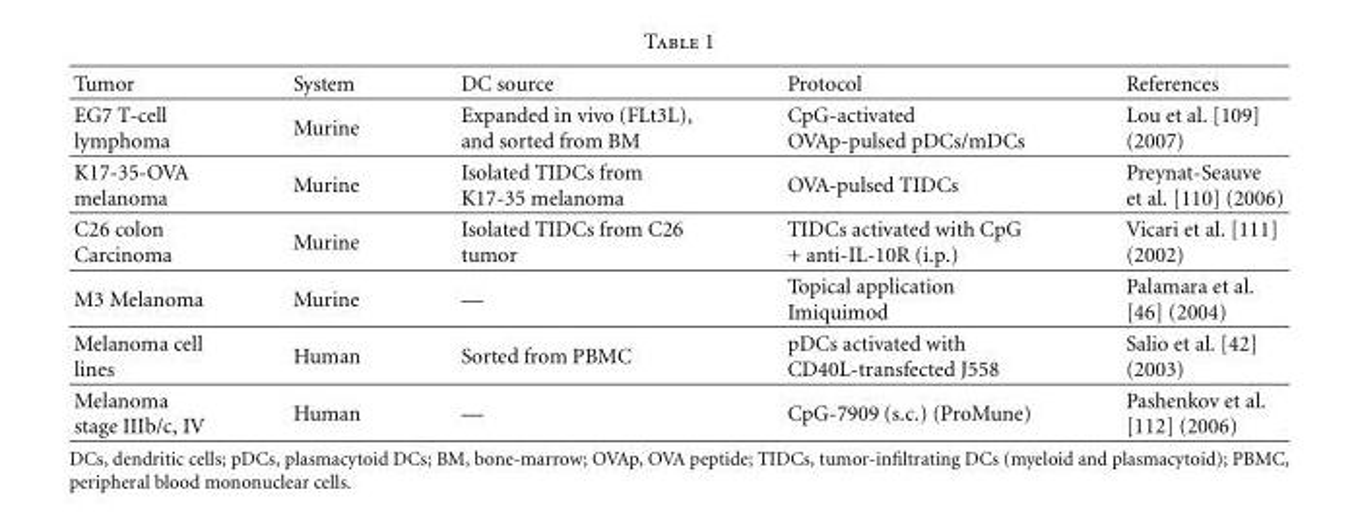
<table><thead><tr><td>Tumor</td><td>System</td><td>DC source</td><td>Protocol</td><td>References</td></tr></thead><tbody><tr><td>EG7 T-cell lymphoma</td><td>Murine</td><td>Expanded in vivo (FLt3L), and sorted from BM</td><td>CpG-activated OVAp-pulsed pDCs/mDCs</td><td>Lou et al. [109] (2007)</td></tr><tr><td>K17-35-OVA melanoma</td><td>Murine</td><td>Isolated TIDCs from K17-35 melanoma</td><td>OVA-pulsed TIDCs</td><td>Preynat-Seauve et al. [110] (2006)</td></tr><tr><td>C26 colon Carcinoma</td><td>Murine</td><td>Isolated TIDCs from C26 tumor</td><td>TIDCs activated with CpG + anti-IL-10R (i.p.)</td><td>Vicari et al. [111] (2002)</td></tr><tr><td>M3 Melanoma</td><td>Murine</td><td>—</td><td>Topical application Imiquimod</td><td>Palamara et al. [46] (2004)</td></tr><tr><td>Melanoma cell lines</td><td>Human</td><td>Sorted from PBMC</td><td>pDCs activated with CD40L-transfected J558</td><td>Salio et al. [42] (2003)</td></tr><tr><td>Melanoma stage IIIb/c, IV</td><td>Human</td><td>—</td><td>CpG-7909 (s.c.) (ProMune)</td><td>Pashenkov et al. [112] (2006)</td></tr></tbody></table>